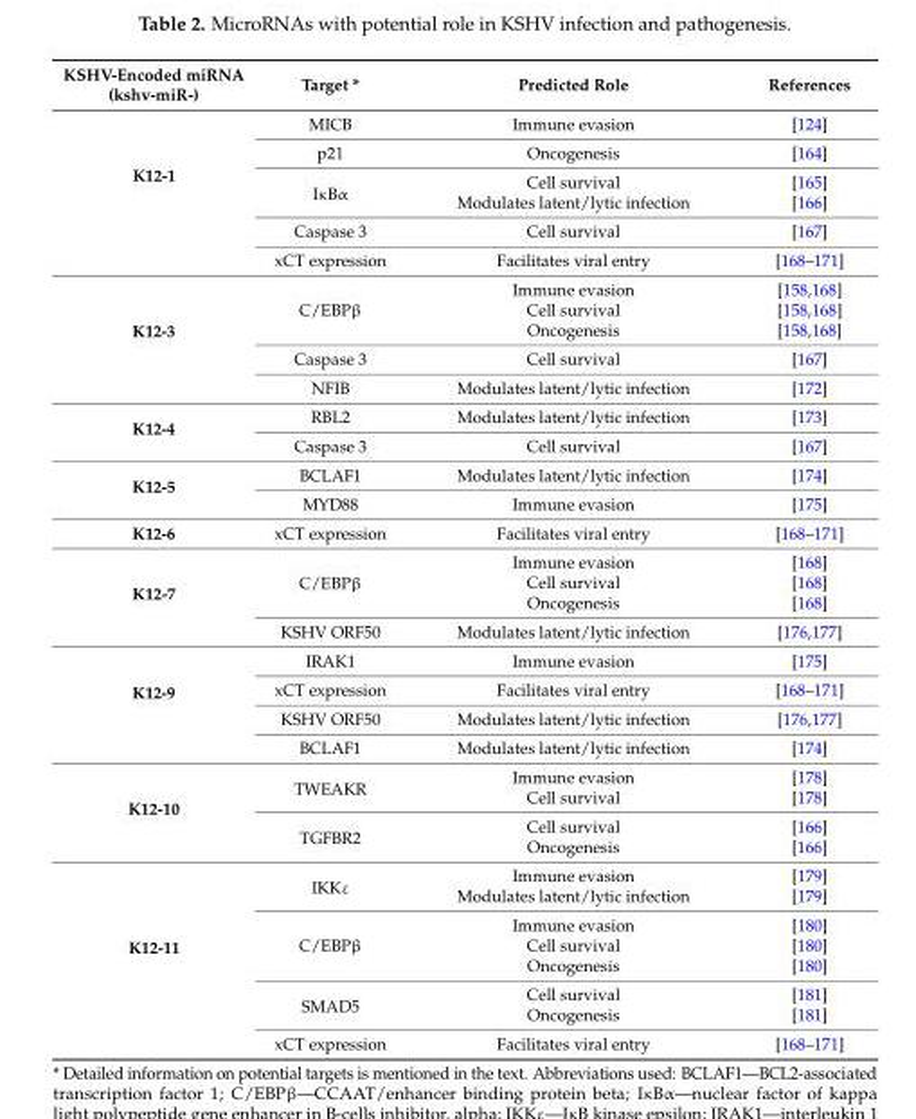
<table><thead><tr><td>KSHV-Encoded miRNA (kshv-miR-)</td><td>Target *</td><td>Predicted Role</td><td>References</td></tr></thead><tbody><tr><td rowspan="6">K12-1</td><td>MICB</td><td>Immune evasion</td><td>[124]</td></tr><tr><td>p21</td><td>Oncogenesis</td><td>[164]</td></tr><tr><td rowspan="2">IκBα</td><td>Cell survival</td><td>[165]</td></tr><tr><td>Modulates latent/lytic infection</td><td>[166]</td></tr><tr><td>Caspase 3</td><td>Cell survival</td><td>[167]</td></tr><tr><td>xCT expression</td><td>Facilitates viral entry</td><td>[168–171]</td></tr><tr><td rowspan="5">K12-3</td><td rowspan="3">C/EBPβ</td><td>Immune evasion</td><td>[158,168]</td></tr><tr><td>Cell survival</td><td>[158,168]</td></tr><tr><td>Oncogenesis</td><td>[158,168]</td></tr><tr><td>Caspase 3</td><td>Cell survival</td><td>[167]</td></tr><tr><td>NFIB</td><td>Modulates latent/lytic infection</td><td>[172]</td></tr><tr><td rowspan="2">K12-4</td><td>RBL2</td><td>Modulates latent/lytic infection</td><td>[173]</td></tr><tr><td>Caspase 3</td><td>Cell survival</td><td>[167]</td></tr><tr><td rowspan="2">K12-5</td><td>BCLAF1</td><td>Modulates latent/lytic infection</td><td>[174]</td></tr><tr><td>MYD88</td><td>Immune evasion</td><td>[175]</td></tr><tr><td>K12-6</td><td>xCT expression</td><td>Facilitates viral entry</td><td>[168–171]</td></tr><tr><td rowspan="4">K12-7</td><td rowspan="3">C/EBPβ</td><td>Immune evasion</td><td>[168]</td></tr><tr><td>Cell survival</td><td>[168]</td></tr><tr><td>Oncogenesis</td><td>[168]</td></tr><tr><td>KSHV ORF50</td><td>Modulates latent/lytic infection</td><td>[176,177]</td></tr><tr><td rowspan="4">K12-9</td><td>IRAK1</td><td>Immune evasion</td><td>[175]</td></tr><tr><td>xCT expression</td><td>Facilitates viral entry</td><td>[168–171]</td></tr><tr><td>KSHV ORF50</td><td>Modulates latent/lytic infection</td><td>[176,177]</td></tr><tr><td>BCLAF1</td><td>Modulates latent/lytic infection</td><td>[174]</td></tr><tr><td rowspan="4">K12-10</td><td rowspan="2">TWEAKR</td><td>Immune evasion</td><td>[178]</td></tr><tr><td>Cell survival</td><td>[178]</td></tr><tr><td rowspan="2">TGFBR2</td><td>Cell survival</td><td>[166]</td></tr><tr><td>Oncogenesis</td><td>[166]</td></tr><tr><td rowspan="8">K12-11</td><td rowspan="2">IKKε</td><td>Immune evasion</td><td>[179]</td></tr><tr><td>Modulates latent/lytic infection</td><td>[179]</td></tr><tr><td rowspan="3">C/EBPβ</td><td>Immune evasion</td><td>[180]</td></tr><tr><td>Cell survival</td><td>[180]</td></tr><tr><td>Oncogenesis</td><td>[180]</td></tr><tr><td rowspan="2">SMAD5</td><td>Cell survival</td><td>[181]</td></tr><tr><td>Oncogenesis</td><td>[181]</td></tr><tr><td>xCT expression</td><td>Facilitates viral entry</td><td>[168–171]</td></tr></tbody></table>